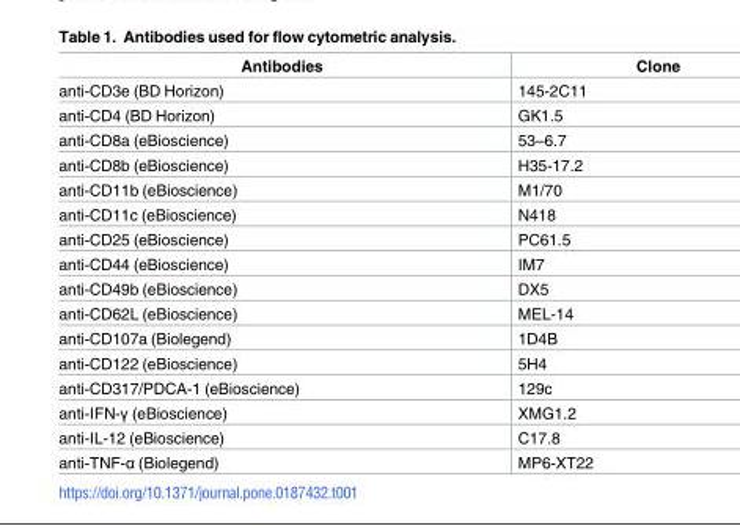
<table><thead><tr><td>Antibodies</td><td>Clone</td></tr></thead><tbody><tr><td>anti-CD3e (BD Horizon)</td><td>145-2C11</td></tr><tr><td>anti-CD4 (BD Horizon)</td><td>GK1.5</td></tr><tr><td>anti-CD8a (eBioscience)</td><td>53–6.7</td></tr><tr><td>anti-CD8b (eBioscience)</td><td>H35-17.2</td></tr><tr><td>anti-CD11b (eBioscience)</td><td>M1/70</td></tr><tr><td>anti-CD11c (eBioscience)</td><td>N418</td></tr><tr><td>anti-CD25 (eBioscience)</td><td>PC61.5</td></tr><tr><td>anti-CD44 (eBioscience)</td><td>IM7</td></tr><tr><td>anti-CD49b (eBioscience)</td><td>DX5</td></tr><tr><td>anti-CD62L (eBioscience)</td><td>MEL-14</td></tr><tr><td>anti-CD107a (Biolegend)</td><td>1D4B</td></tr><tr><td>anti-CD122 (eBioscience)</td><td>5H4</td></tr><tr><td>anti-CD317/PDCA-1 (eBioscience)</td><td>129c</td></tr><tr><td>anti-IFN-γ (eBioscience)</td><td>XMG1.2</td></tr><tr><td>anti-IL-12 (eBioscience)</td><td>C17.8</td></tr><tr><td>anti-TNF-α (Biolegend)</td><td>MP6-XT22</td></tr></tbody></table>